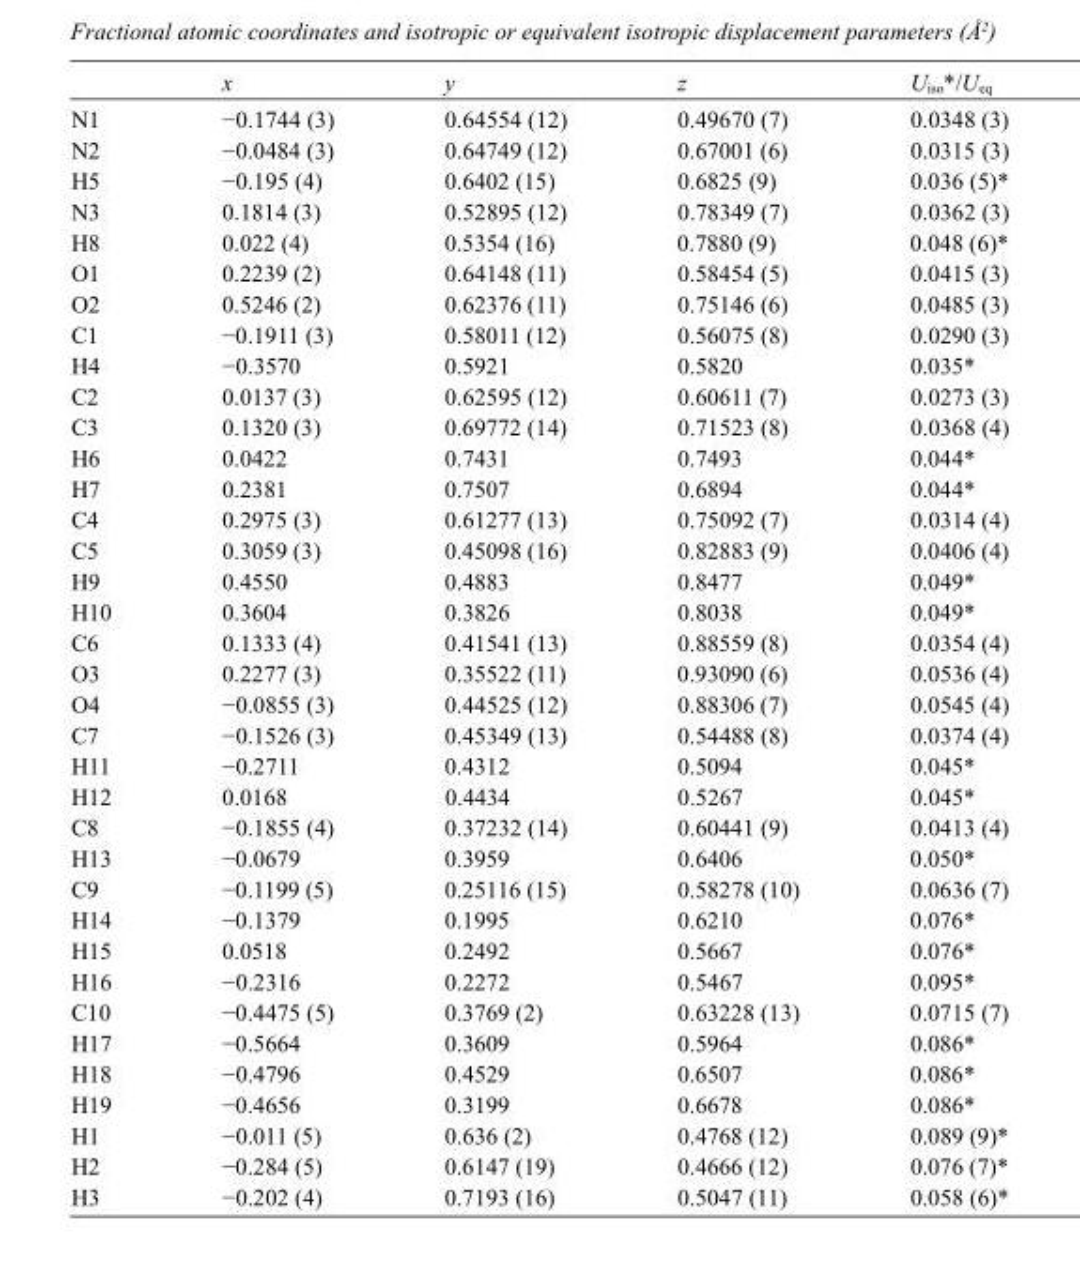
<table><thead><tr><td></td><td>x</td><td>y</td><td>z</td><td>U<sub>iso</sub>*/U<sub>eq</sub></td></tr></thead><tbody><tr><td>N1</td><td>−0.1744 (3)</td><td>0.64554 (12)</td><td>0.49670 (7)</td><td>0.0348 (3)</td></tr><tr><td>N2</td><td>−0.0484 (3)</td><td>0.64749 (12)</td><td>0.67001 (6)</td><td>0.0315 (3)</td></tr><tr><td>H5</td><td>−0.195 (4)</td><td>0.6402 (15)</td><td>0.6825 (9)</td><td>0.036 (5)*</td></tr><tr><td>N3</td><td>0.1814 (3)</td><td>0.52895 (12)</td><td>0.78349 (7)</td><td>0.0362 (3)</td></tr><tr><td>H8</td><td>0.022 (4)</td><td>0.5354 (16)</td><td>0.7880 (9)</td><td>0.048 (6)*</td></tr><tr><td>O1</td><td>0.2239 (2)</td><td>0.64148 (11)</td><td>0.58454 (5)</td><td>0.0415 (3)</td></tr><tr><td>O2</td><td>0.5246 (2)</td><td>0.62376 (11)</td><td>0.75146 (6)</td><td>0.0485 (3)</td></tr><tr><td>C1</td><td>−0.1911 (3)</td><td>0.58011 (12)</td><td>0.56075 (8)</td><td>0.0290 (3)</td></tr><tr><td>H4</td><td>−0.3570</td><td>0.5921</td><td>0.5820</td><td>0.035*</td></tr><tr><td>C2</td><td>0.0137 (3)</td><td>0.62595 (12)</td><td>0.60611 (7)</td><td>0.0273 (3)</td></tr><tr><td>C3</td><td>0.1320 (3)</td><td>0.69772 (14)</td><td>0.71523 (8)</td><td>0.0368 (4)</td></tr><tr><td>H6</td><td>0.0422</td><td>0.7431</td><td>0.7493</td><td>0.044*</td></tr><tr><td>H7</td><td>0.2381</td><td>0.7507</td><td>0.6894</td><td>0.044*</td></tr><tr><td>C4</td><td>0.2975 (3)</td><td>0.61277 (13)</td><td>0.75092 (7)</td><td>0.0314 (4)</td></tr><tr><td>C5</td><td>0.3059 (3)</td><td>0.45098 (16)</td><td>0.82883 (9)</td><td>0.0406 (4)</td></tr><tr><td>H9</td><td>0.4550</td><td>0.4883</td><td>0.8477</td><td>0.049*</td></tr><tr><td>H10</td><td>0.3604</td><td>0.3826</td><td>0.8038</td><td>0.049*</td></tr><tr><td>C6</td><td>0.1333 (4)</td><td>0.41541 (13)</td><td>0.88559 (8)</td><td>0.0354 (4)</td></tr><tr><td>O3</td><td>0.2277 (3)</td><td>0.35522 (11)</td><td>0.93090 (6)</td><td>0.0536 (4)</td></tr><tr><td>O4</td><td>−0.0855 (3)</td><td>0.44525 (12)</td><td>0.88306 (7)</td><td>0.0545 (4)</td></tr><tr><td>C7</td><td>−0.1526 (3)</td><td>0.45349 (13)</td><td>0.54488 (8)</td><td>0.0374 (4)</td></tr><tr><td>H11</td><td>−0.2711</td><td>0.4312</td><td>0.5094</td><td>0.045*</td></tr><tr><td>H12</td><td>0.0168</td><td>0.4434</td><td>0.5267</td><td>0.045*</td></tr><tr><td>C8</td><td>−0.1855 (4)</td><td>0.37232 (14)</td><td>0.60441 (9)</td><td>0.0413 (4)</td></tr><tr><td>H13</td><td>−0.0679</td><td>0.3959</td><td>0.6406</td><td>0.050*</td></tr><tr><td>C9</td><td>−0.1199 (5)</td><td>0.25116 (15)</td><td>0.58278 (10)</td><td>0.0636 (7)</td></tr><tr><td>H14</td><td>−0.1379</td><td>0.1995</td><td>0.6210</td><td>0.076*</td></tr><tr><td>H15</td><td>0.0518</td><td>0.2492</td><td>0.5667</td><td>0.076*</td></tr><tr><td>H16</td><td>−0.2316</td><td>0.2272</td><td>0.5467</td><td>0.095*</td></tr><tr><td>C10</td><td>−0.4475 (5)</td><td>0.3769 (2)</td><td>0.63228 (13)</td><td>0.0715 (7)</td></tr><tr><td>H17</td><td>−0.5664</td><td>0.3609</td><td>0.5964</td><td>0.086*</td></tr><tr><td>H18</td><td>−0.4796</td><td>0.4529</td><td>0.6507</td><td>0.086*</td></tr><tr><td>H19</td><td>−0.4656</td><td>0.3199</td><td>0.6678</td><td>0.086*</td></tr><tr><td>H1</td><td>−0.011 (5)</td><td>0.636 (2)</td><td>0.4768 (12)</td><td>0.089 (9)*</td></tr><tr><td>H2</td><td>−0.284 (5)</td><td>0.6147 (19)</td><td>0.4666 (12)</td><td>0.076 (7)*</td></tr><tr><td>H3</td><td>−0.202 (4)</td><td>0.7193 (16)</td><td>0.5047 (11)</td><td>0.058 (6)*</td></tr></tbody></table>